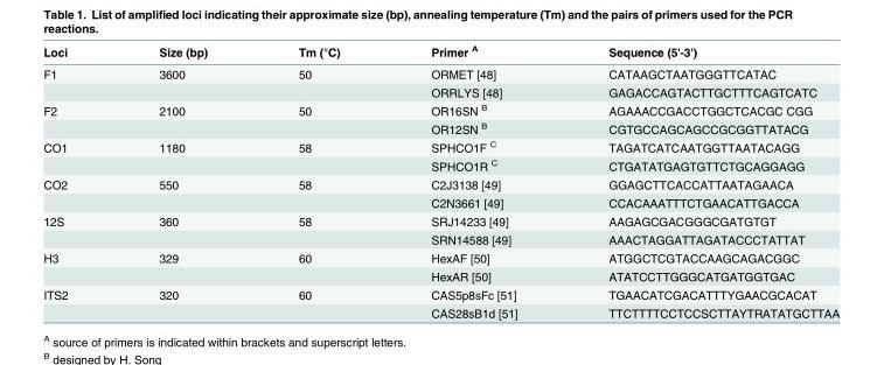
<table><thead><tr><td>Loci</td><td>Size (bp)</td><td>Tm (°C)</td><td>Primer <sup>A</sup></td><td>Sequence (5&#x27;-3&#x27;)</td></tr></thead><tbody><tr><td rowspan="2">F1</td><td>3600</td><td>50</td><td>ORMET [48]</td><td>CATAAGCTAATGGGTTCATAC</td></tr><tr><td></td><td></td><td>ORRLYS [48]</td><td>GAGACCAGTACTTGCTTTCAGTCATC</td></tr><tr><td rowspan="2">F2</td><td>2100</td><td>50</td><td>OR16SN <sup>B</sup></td><td>AGAAACCGACCTGGCTCACGC CGG</td></tr><tr><td></td><td></td><td>OR12SN <sup>B</sup></td><td>CGTGCCAGCAGCCGCGGTTATACG</td></tr><tr><td rowspan="2">CO1</td><td>1180</td><td>58</td><td>SPHCO1F <sup>C</sup></td><td>TAGATCATCAATGGTTAATACAGG</td></tr><tr><td></td><td></td><td>SPHCO1R <sup>C</sup></td><td>CTGATATGAGTGTTCTGCAGGAGG</td></tr><tr><td rowspan="2">CO2</td><td>550</td><td>58</td><td>C2J3138 [49]</td><td>GGAGCTTCACCATTAATAGAACA</td></tr><tr><td></td><td></td><td>C2N3661 [49]</td><td>CCACAAATTTCTGAACATTGACCA</td></tr><tr><td rowspan="2">12S</td><td>360</td><td>58</td><td>SRJ14233 [49]</td><td>AAGAGCGACGGGCGATGTGT</td></tr><tr><td></td><td></td><td>SRN14588 [49]</td><td>AAACTAGGATTAGATACCCTATTAT</td></tr><tr><td rowspan="2">H3</td><td>329</td><td>60</td><td>HexAF [50]</td><td>ATGGCTCGTACCAAGCAGACGGC</td></tr><tr><td></td><td></td><td>HexAR [50]</td><td>ATATCCTTGGGCATGATGGTGAC</td></tr><tr><td rowspan="2">ITS2</td><td>320</td><td>60</td><td>CAS5p8sFc [51]</td><td>TGAACATCGACATTTYGAACGCACAT</td></tr><tr><td></td><td></td><td>CAS28sB1d [51]</td><td>TTCTTTTCCTCCSCTTAYTRATATGCTTAA</td></tr></tbody></table>